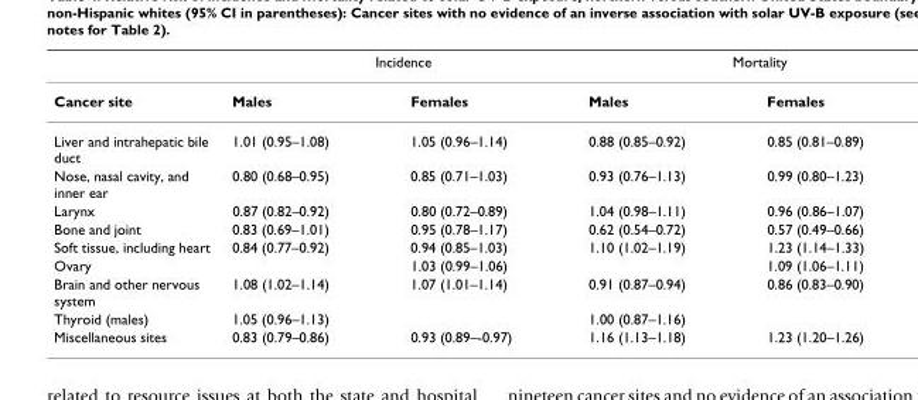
<table><thead><tr><td rowspan="2">Cancer site</td><td colspan="2">Incidence</td><td colspan="2">Mortality</td></tr><tr><td>Males</td><td>Females</td><td>Males</td><td>Females</td></tr></thead><tbody><tr><td>Liver and intrahepatic bile duct</td><td>1.01 (0.95–1.08)</td><td>1.05 (0.96–1.14)</td><td>0.88 (0.85–0.92)</td><td>0.85 (0.81–0.89)</td></tr><tr><td>Nose, nasal cavity, and inner ear</td><td>0.80 (0.68–0.95)</td><td>0.85 (0.71–1.03)</td><td>0.93 (0.76–1.13)</td><td>0.99 (0.80–1.23)</td></tr><tr><td>Larynx</td><td>0.87 (0.82–0.92)</td><td>0.80 (0.72–0.89)</td><td>1.04 (0.98–1.11)</td><td>0.96 (0.86–1.07)</td></tr><tr><td>Bone and joint</td><td>0.83 (0.69–1.01)</td><td>0.95 (0.78–1.17)</td><td>0.62 (0.54–0.72)</td><td>0.57 (0.49–0.66)</td></tr><tr><td>Soft tissue, including heart</td><td>0.84 (0.77–0.92)</td><td>0.94 (0.85–1.03)</td><td>1.10 (1.02–1.19)</td><td>1.23 (1.14–1.33)</td></tr><tr><td>Ovary</td><td></td><td>1.03 (0.99–1.06)</td><td></td><td>1.09 (1.06–1.11)</td></tr><tr><td>Brain and other nervous system</td><td>1.08 (1.02–1.14)</td><td>1.07 (1.01–1.14)</td><td>0.91 (0.87–0.94)</td><td>0.86 (0.83–0.90)</td></tr><tr><td>Thyroid (males)</td><td>1.05 (0.96–1.13)</td><td></td><td>1.00 (0.87–1.16)</td><td></td></tr><tr><td>Miscellaneous sites</td><td>0.83 (0.79–0.86)</td><td>0.93 (0.89–-0.97)</td><td>1.16 (1.13–1.18)</td><td>1.23 (1.20–1.26)</td></tr></tbody></table>